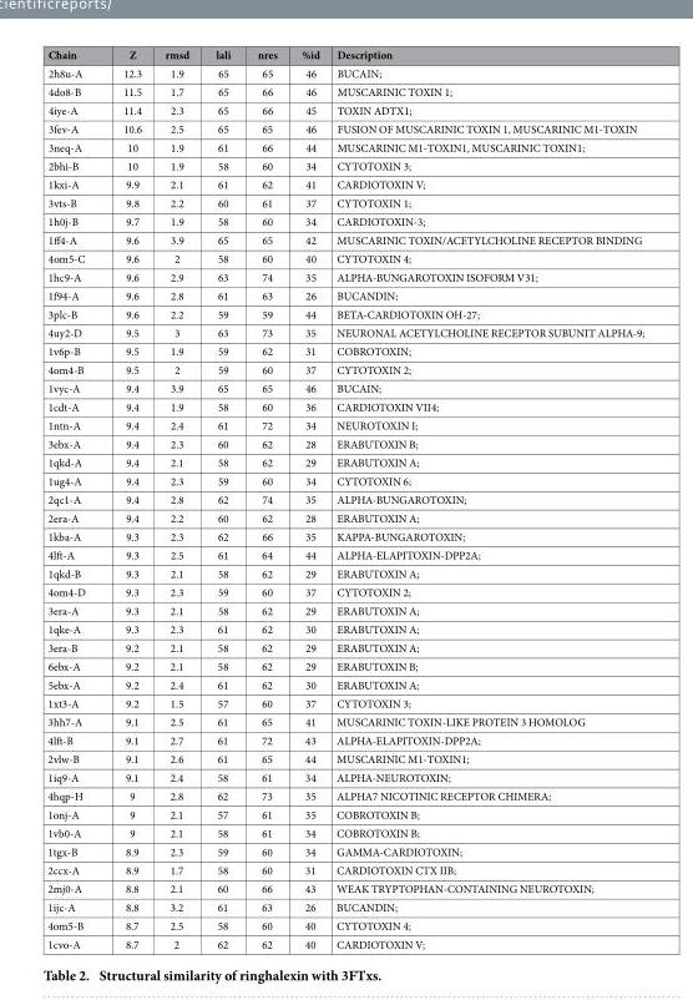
<table><thead><tr><td>Chain</td><td>Z</td><td>rmsd</td><td>lali</td><td>nres</td><td>%id</td><td>Description</td></tr></thead><tbody><tr><td>2h8u-A</td><td>12.3</td><td>1.9</td><td>65</td><td>65</td><td>46</td><td>BUCAIN;</td></tr><tr><td>4do8-B</td><td>11.5</td><td>1.7</td><td>65</td><td>66</td><td>46</td><td>MUSCARINIC TOXIN 1;</td></tr><tr><td>4iye-A</td><td>11.4</td><td>2.3</td><td>65</td><td>66</td><td>45</td><td>TOXIN ADTX1;</td></tr><tr><td>3fev-A</td><td>10.6</td><td>2.5</td><td>65</td><td>65</td><td>46</td><td>FUSION OF MUSCARINIC TOXIN 1, MUSCARINIC M1-TOXIN</td></tr><tr><td>3neq-A</td><td>10</td><td>1.9</td><td>61</td><td>66</td><td>44</td><td>MUSCARINIC M1-TOXIN1, MUSCARINIC TOXIN1;</td></tr><tr><td>2bhi-B</td><td>10</td><td>1.9</td><td>58</td><td>60</td><td>34</td><td>CYTOTOXIN 3;</td></tr><tr><td>1kxi-A</td><td>9.9</td><td>2.1</td><td>61</td><td>62</td><td>41</td><td>CARDIOTOXIN V;</td></tr><tr><td>3vts-B</td><td>9.8</td><td>2.2</td><td>60</td><td>61</td><td>37</td><td>CYTOTOXIN 1;</td></tr><tr><td>1h0j-B</td><td>9.7</td><td>1.9</td><td>58</td><td>60</td><td>34</td><td>CARDIOTOXIN-3;</td></tr><tr><td>1ff4-A</td><td>9.6</td><td>3.9</td><td>65</td><td>65</td><td>42</td><td>MUSCARINIC TOXIN/ACETYLCHOLINE RECEPTOR BINDING</td></tr><tr><td>4om5-C</td><td>9.6</td><td>2</td><td>58</td><td>60</td><td>40</td><td>CYTOTOXIN 4;</td></tr><tr><td>1hc9-A</td><td>9.6</td><td>2.9</td><td>63</td><td>74</td><td>35</td><td>ALPHA-BUNGAROTOXIN ISOFORM V31;</td></tr><tr><td>1f94-A</td><td>9.6</td><td>2.8</td><td>61</td><td>63</td><td>26</td><td>BUCANDIN;</td></tr><tr><td>3plc-B</td><td>9.6</td><td>2.2</td><td>59</td><td>59</td><td>44</td><td>BETA-CARDIOTOXIN OH-27;</td></tr><tr><td>4uy2-D</td><td>9.5</td><td>3</td><td>63</td><td>73</td><td>35</td><td>NEURONAL ACETYLCHOLINE RECEPTOR SUBUNIT ALPHA-9;</td></tr><tr><td>1v6p-B</td><td>9.5</td><td>1.9</td><td>59</td><td>62</td><td>31</td><td>COBROTOXIN;</td></tr><tr><td>4om4-B</td><td>9.5</td><td>2</td><td>59</td><td>60</td><td>37</td><td>CYTOTOXIN 2;</td></tr><tr><td>1vyc-A</td><td>9.4</td><td>3.9</td><td>65</td><td>65</td><td>46</td><td>BUCAIN;</td></tr><tr><td>1cdt-A</td><td>9.4</td><td>1.9</td><td>58</td><td>60</td><td>36</td><td>CARDIOTOXIN VII4;</td></tr><tr><td>1ntn-A</td><td>9.4</td><td>2.4</td><td>61</td><td>72</td><td>34</td><td>NEUROTOXIN I;</td></tr><tr><td>3ebx-A</td><td>9.4</td><td>2.3</td><td>60</td><td>62</td><td>28</td><td>ERABUTOXIN B;</td></tr><tr><td>1qkd-A</td><td>9.4</td><td>2.1</td><td>58</td><td>62</td><td>29</td><td>ERABUTOXIN A;</td></tr><tr><td>1ug4-A</td><td>9.4</td><td>2.3</td><td>59</td><td>60</td><td>34</td><td>CYTOTOXIN 6;</td></tr><tr><td>2qc1-A</td><td>9.4</td><td>2.8</td><td>62</td><td>74</td><td>35</td><td>ALPHA-BUNGAROTOXIN;</td></tr><tr><td>2era-A</td><td>9.4</td><td>2.2</td><td>60</td><td>62</td><td>28</td><td>ERABUTOXIN A;</td></tr><tr><td>1kba-A</td><td>9.3</td><td>2.3</td><td>62</td><td>66</td><td>35</td><td>KAPPA-BUNGAROTOXIN;</td></tr><tr><td>4lft-A</td><td>9.3</td><td>2.5</td><td>61</td><td>64</td><td>44</td><td>ALPHA-ELAPITOXIN-DPP2A;</td></tr><tr><td>1qkd-B</td><td>9.3</td><td>2.1</td><td>58</td><td>62</td><td>29</td><td>ERABUTOXIN A;</td></tr><tr><td>4om4-D</td><td>9.3</td><td>2.3</td><td>59</td><td>60</td><td>37</td><td>CYTOTOXIN 2;</td></tr><tr><td>3era-A</td><td>9.3</td><td>2.1</td><td>58</td><td>62</td><td>29</td><td>ERABUTOXIN A;</td></tr><tr><td>1qke-A</td><td>9.3</td><td>2.3</td><td>61</td><td>62</td><td>30</td><td>ERABUTOXIN A;</td></tr><tr><td>3era-B</td><td>9.2</td><td>2.1</td><td>58</td><td>62</td><td>29</td><td>ERABUTOXIN A;</td></tr><tr><td>6ebx-A</td><td>9.2</td><td>2.1</td><td>58</td><td>62</td><td>29</td><td>ERABUTOXIN B;</td></tr><tr><td>5ebx-A</td><td>9.2</td><td>2.4</td><td>61</td><td>62</td><td>30</td><td>ERABUTOXIN A;</td></tr><tr><td>1xt3-A</td><td>9.2</td><td>1.5</td><td>57</td><td>60</td><td>37</td><td>CYTOTOXIN 3;</td></tr><tr><td>3hh7-A</td><td>9.1</td><td>2.5</td><td>61</td><td>65</td><td>41</td><td>MUSCARINIC TOXIN-LIKE PROTEIN 3 HOMOLOG</td></tr><tr><td>4lft-B</td><td>9.1</td><td>2.7</td><td>61</td><td>72</td><td>43</td><td>ALPHA-ELAPITOXIN-DPP2A;</td></tr><tr><td>2vlw-B</td><td>9.1</td><td>2.6</td><td>61</td><td>65</td><td>44</td><td>MUSCARINIC M1-TOXIN1;</td></tr><tr><td>1iq9-A</td><td>9.1</td><td>2.4</td><td>58</td><td>61</td><td>34</td><td>ALPHA-NEUROTOXIN;</td></tr><tr><td>4hqp-H</td><td>9</td><td>2.8</td><td>62</td><td>73</td><td>35</td><td>ALPHA7 NICOTINIC RECEPTOR CHIMERA;</td></tr><tr><td>1onj-A</td><td>9</td><td>2.1</td><td>57</td><td>61</td><td>35</td><td>COBROTOXIN B;</td></tr><tr><td>1vb0-A</td><td>9</td><td>2.1</td><td>58</td><td>61</td><td>34</td><td>COBROTOXIN B;</td></tr><tr><td>1tgx-B</td><td>8.9</td><td>2.3</td><td>59</td><td>60</td><td>34</td><td>GAMMA-CARDIOTOXIN;</td></tr><tr><td>2ccx-A</td><td>8.9</td><td>1.7</td><td>58</td><td>60</td><td>31</td><td>CARDIOTOXIN CTX IIB;</td></tr><tr><td>2mj0-A</td><td>8.8</td><td>2.1</td><td>60</td><td>66</td><td>43</td><td>WEAK TRYPTOPHAN-CONTAINING NEUROTOXIN;</td></tr><tr><td>1ijc-A</td><td>8.8</td><td>3.2</td><td>61</td><td>63</td><td>26</td><td>BUCANDIN;</td></tr><tr><td>4om5-B</td><td>8.7</td><td>2.5</td><td>58</td><td>60</td><td>40</td><td>CYTOTOXIN 4;</td></tr><tr><td>1cvo-A</td><td>8.7</td><td>2</td><td>62</td><td>62</td><td>40</td><td>CARDIOTOXIN V;</td></tr></tbody></table>